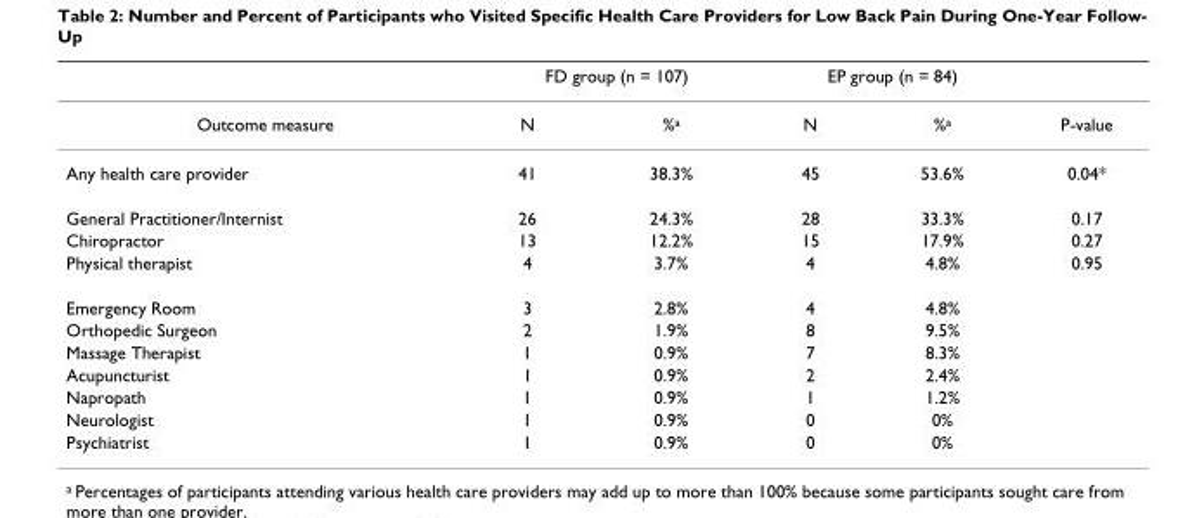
<table><thead><tr><td rowspan="2">Outcome measure</td><td colspan="2">FD group (n = 107)</td><td colspan="2">EP group (n = 84)</td><td rowspan="2">P-value</td></tr><tr><td>N</td><td>%<sup>a</sup></td><td>N</td><td>%<sup>a</sup></td></tr></thead><tbody><tr><td>Any health care provider</td><td>41</td><td>38.3%</td><td>45</td><td>53.6%</td><td>0.04*</td></tr><tr><td>General Practitioner/Internist</td><td>26</td><td>24.3%</td><td>28</td><td>33.3%</td><td>0.17</td></tr><tr><td>Chiropractor</td><td>13</td><td>12.2%</td><td>15</td><td>17.9%</td><td>0.27</td></tr><tr><td>Physical therapist</td><td>4</td><td>3.7%</td><td>4</td><td>4.8%</td><td>0.95</td></tr><tr><td>Emergency Room</td><td>3</td><td>2.8%</td><td>4</td><td>4.8%</td><td></td></tr><tr><td>Orthopedic Surgeon</td><td>2</td><td>1.9%</td><td>8</td><td>9.5%</td><td></td></tr><tr><td>Massage Therapist</td><td>1</td><td>0.9%</td><td>7</td><td>8.3%</td><td></td></tr><tr><td>Acupuncturist</td><td>1</td><td>0.9%</td><td>2</td><td>2.4%</td><td></td></tr><tr><td>Napropath</td><td>1</td><td>0.9%</td><td>1</td><td>1.2%</td><td></td></tr><tr><td>Neurologist</td><td>1</td><td>0.9%</td><td>0</td><td>0%</td><td></td></tr><tr><td>Psychiatrist</td><td>1</td><td>0.9%</td><td>0</td><td>0%</td><td></td></tr></tbody></table>